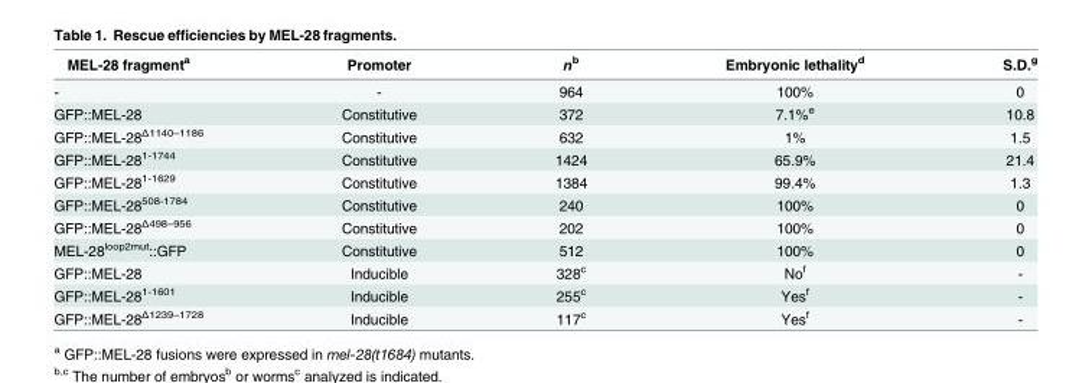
<table><thead><tr><td>MEL-28 fragment<sup>a</sup></td><td>Promoter</td><td>n<sup>b</sup></td><td>Embryonic lethality<sup>d</sup></td><td>S.D.<sup>g</sup></td></tr></thead><tbody><tr><td>-</td><td>-</td><td>964</td><td>100%</td><td>0</td></tr><tr><td>GFP::MEL-28</td><td>Constitutive</td><td>372</td><td>7.1%<sup>e</sup></td><td>10.8</td></tr><tr><td>GFP::MEL-28<sup>Δ1140–1186</sup></td><td>Constitutive</td><td>632</td><td>1%</td><td>1.5</td></tr><tr><td>GFP::MEL-28<sup>1-1744</sup></td><td>Constitutive</td><td>1424</td><td>65.9%</td><td>21.4</td></tr><tr><td>GFP::MEL-28<sup>1-1629</sup></td><td>Constitutive</td><td>1384</td><td>99.4%</td><td>1.3</td></tr><tr><td>GFP::MEL-28<sup>508-1784</sup></td><td>Constitutive</td><td>240</td><td>100%</td><td>0</td></tr><tr><td>GFP::MEL-28<sup>Δ498–956</sup></td><td>Constitutive</td><td>202</td><td>100%</td><td>0</td></tr><tr><td>MEL-28<sup>loop2mut</sup>::GFP</td><td>Constitutive</td><td>512</td><td>100%</td><td>0</td></tr><tr><td>GFP::MEL-28</td><td>Inducible</td><td>328<sup>c</sup></td><td>No<sup>f</sup></td><td>-</td></tr><tr><td>GFP::MEL-28<sup>1-1601</sup></td><td>Inducible</td><td>255<sup>c</sup></td><td>Yes<sup>f</sup></td><td>-</td></tr><tr><td>GFP::MEL-28<sup>Δ1239–1728</sup></td><td>Inducible</td><td>117<sup>c</sup></td><td>Yes<sup>f</sup></td><td>-</td></tr></tbody></table>